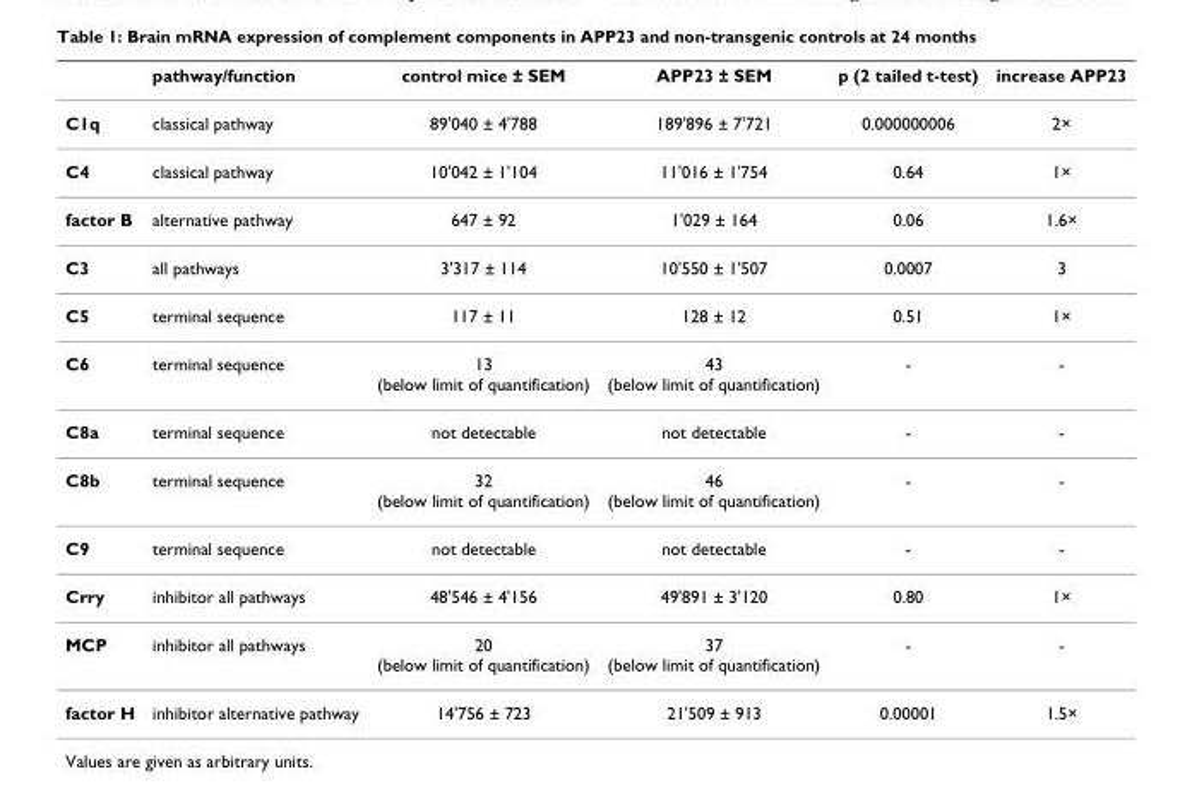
<table><thead><tr><td></td><td>pathway/function</td><td>control mice ± SEM</td><td>APP23 ± SEM</td><td>p (2 tailed t-test)</td><td>increase APP23</td></tr></thead><tbody><tr><td>C1q</td><td>classical pathway</td><td>89&#x27;040 ± 4&#x27;788</td><td>189&#x27;896 ± 7&#x27;721</td><td>0.000000006</td><td>2×</td></tr><tr><td>C4</td><td>classical pathway</td><td>10&#x27;042 ± 1&#x27;104</td><td>11&#x27;016 ± 1&#x27;754</td><td>0.64</td><td>1×</td></tr><tr><td>factor B</td><td>alternative pathway</td><td>647 ± 92</td><td>1&#x27;029 ± 164</td><td>0.06</td><td>1.6×</td></tr><tr><td>C3</td><td>all pathways</td><td>3&#x27;317 ± 114</td><td>10&#x27;550 ± 1&#x27;507</td><td>0.0007</td><td>3</td></tr><tr><td>C5</td><td>terminal sequence</td><td>117 ± 11</td><td>128 ± 12</td><td>0.51</td><td>1×</td></tr><tr><td>C6</td><td>terminal sequence</td><td>13 (below limit of quantification)</td><td>43 (below limit of quantification)</td><td>-</td><td>-</td></tr><tr><td>C8a</td><td>terminal sequence</td><td>not detectable</td><td>not detectable</td><td>-</td><td>-</td></tr><tr><td>C8b</td><td>terminal sequence</td><td>32 (below limit of quantification)</td><td>46 (below limit of quantification)</td><td>-</td><td>-</td></tr><tr><td>C9</td><td>terminal sequence</td><td>not detectable</td><td>not detectable</td><td>-</td><td>-</td></tr><tr><td>Crry</td><td>inhibitor all pathways</td><td>48&#x27;546 ± 4&#x27;156</td><td>49&#x27;891 ± 3&#x27;120</td><td>0.80</td><td>1×</td></tr><tr><td>MCP</td><td>inhibitor all pathways</td><td>20 (below limit of quantification)</td><td>37 (below limit of quantification)</td><td>-</td><td>-</td></tr><tr><td>factor H</td><td>inhibitor alternative pathway</td><td>14&#x27;756 ± 723</td><td>21&#x27;509 ± 913</td><td>0.00001</td><td>1.5×</td></tr></tbody></table>